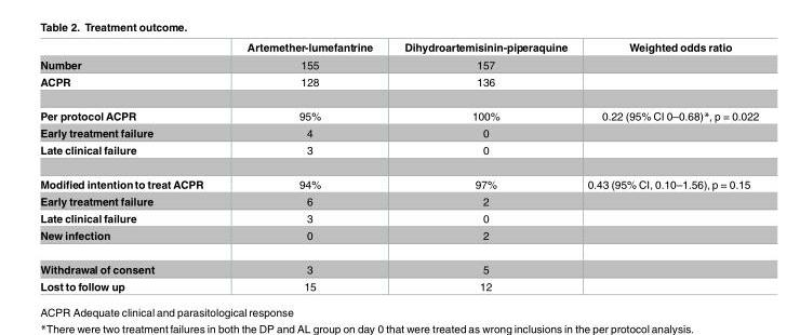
<table><thead><tr><td></td><td>Artemether-lumefantrine</td><td>Dihydroartemisinin-piperaquine</td><td>Weighted odds ratio</td></tr></thead><tbody><tr><td>Number</td><td>155</td><td>157</td><td></td></tr><tr><td>ACPR</td><td>128</td><td>136</td><td></td></tr><tr><td>Per protocol ACPR</td><td>95%</td><td>100%</td><td>0.22 (95% CI 0–0.68)*, p = 0.022</td></tr><tr><td>Early treatment failure</td><td>4</td><td>0</td><td></td></tr><tr><td>Late clinical failure</td><td>3</td><td>0</td><td></td></tr><tr><td>Modified intention to treat ACPR</td><td>94%</td><td>97%</td><td>0.43 (95% CI, 0.10–1.56), p = 0.15</td></tr><tr><td>Early treatment failure</td><td>6</td><td>2</td><td></td></tr><tr><td>Late clinical failure</td><td>3</td><td>0</td><td></td></tr><tr><td>New infection</td><td>0</td><td>2</td><td></td></tr><tr><td>Withdrawal of consent</td><td>3</td><td>5</td><td></td></tr><tr><td>Lost to follow up</td><td>15</td><td>12</td><td></td></tr></tbody></table>